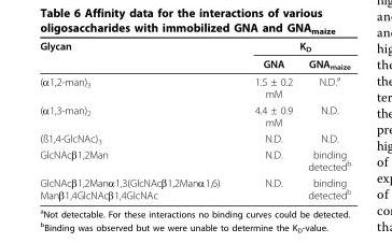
<table><thead><tr><td rowspan="2">Glycan</td><td colspan="2">K<sub>D</sub></td></tr><tr><td>GNA</td><td>GNA<sub>maize</sub></td></tr></thead><tbody><tr><td>(α1,2-man)<sub>3</sub></td><td>1.5 ± 0.2 mM</td><td>N.D.<sup>a</sup></td></tr><tr><td>(α1,3-man)<sub>2</sub></td><td>4.4 ± 0.9 mM</td><td>N.D.</td></tr><tr><td>(ß1,4-GlcNAc)<sub>3</sub></td><td>N.D.</td><td>N.D.</td></tr><tr><td>GlcNAcβ1,2Man</td><td>N.D.</td><td>binding detected<sup>b</sup></td></tr><tr><td>GlcNAcβ1,2Manα1,3(GlcNAcβ1,2Manα1,6) Manβ1,4GlcNAcβ1,4GlcNAc</td><td>N.D.</td><td>binding detected<sup>b</sup></td></tr></tbody></table>